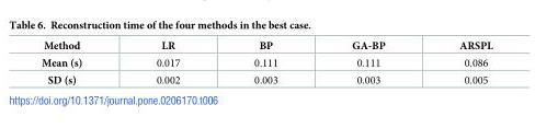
<table><thead><tr><td>Method</td><td>LR</td><td>BP</td><td>GA-BP</td><td>ARSPL</td></tr></thead><tbody><tr><td>Mean (s)</td><td>0.017</td><td>0.111</td><td>0.111</td><td>0.086</td></tr><tr><td>SD (s)</td><td>0.002</td><td>0.003</td><td>0.003</td><td>0.005</td></tr></tbody></table>